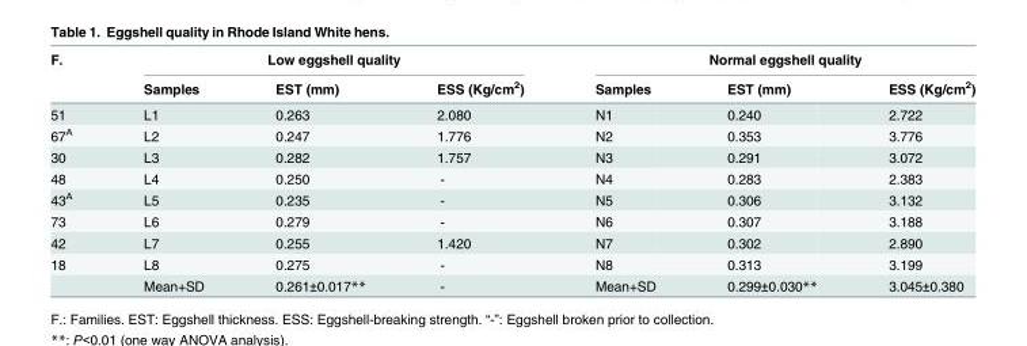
<table><thead><tr><td rowspan="2">F.</td><td colspan="3">Low eggshell quality</td><td colspan="3">Normal eggshell quality</td></tr><tr><td>Samples</td><td>EST (mm)</td><td>ESS (Kg/cm<sup>2</sup>)</td><td>Samples</td><td>EST (mm)</td><td>ESS (Kg/cm<sup>2</sup>)</td></tr></thead><tbody><tr><td>51</td><td>L1</td><td>0.263</td><td>2.080</td><td>N1</td><td>0.240</td><td>2.722</td></tr><tr><td>67<sup>A</sup></td><td>L2</td><td>0.247</td><td>1.776</td><td>N2</td><td>0.353</td><td>3.776</td></tr><tr><td>30</td><td>L3</td><td>0.282</td><td>1.757</td><td>N3</td><td>0.291</td><td>3.072</td></tr><tr><td>48</td><td>L4</td><td>0.250</td><td>-</td><td>N4</td><td>0.283</td><td>2.383</td></tr><tr><td>43<sup>A</sup></td><td>L5</td><td>0.235</td><td>-</td><td>N5</td><td>0.306</td><td>3.132</td></tr><tr><td>73</td><td>L6</td><td>0.279</td><td>-</td><td>N6</td><td>0.307</td><td>3.188</td></tr><tr><td>42</td><td>L7</td><td>0.255</td><td>1.420</td><td>N7</td><td>0.302</td><td>2.890</td></tr><tr><td rowspan="2">18</td><td>L8</td><td>0.275</td><td>-</td><td>N8</td><td>0.313</td><td>3.199</td></tr><tr><td>Mean+SD</td><td>0.261±0.017**</td><td>-</td><td>Mean+SD</td><td>0.299±0.030**</td><td>3.045±0.380</td></tr></tbody></table>